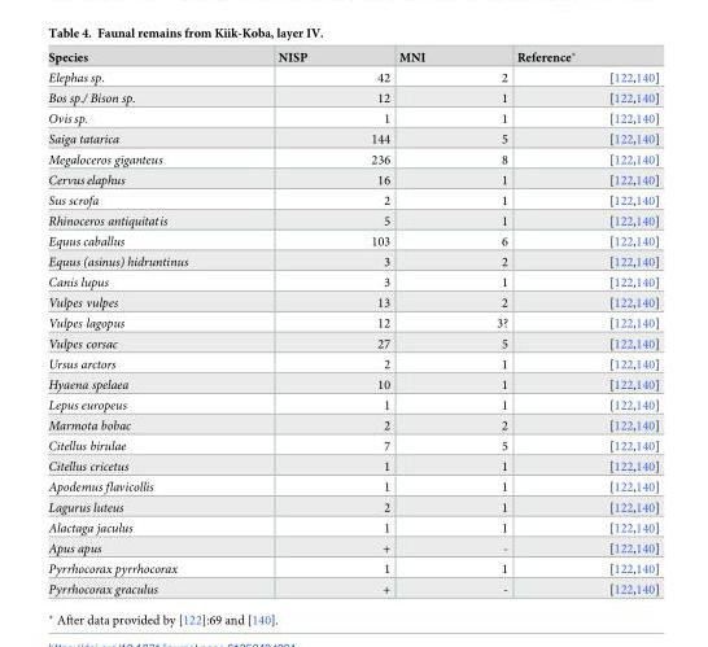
<table><thead><tr><td>Species</td><td>NISP</td><td>MNI</td><td>Reference*</td></tr></thead><tbody><tr><td>Elephas sp.</td><td>42</td><td>2</td><td>[122,140]</td></tr><tr><td>Bos sp./ Bison sp.</td><td>12</td><td>1</td><td>[122,140]</td></tr><tr><td>Ovis sp.</td><td>1</td><td>1</td><td>[122,140]</td></tr><tr><td>Saiga tatarica</td><td>144</td><td>5</td><td>[122,140]</td></tr><tr><td>Megaloceros giganteus</td><td>236</td><td>8</td><td>[122,140]</td></tr><tr><td>Cervus elaphus</td><td>16</td><td>1</td><td>[122,140]</td></tr><tr><td>Sus scrofa</td><td>2</td><td>1</td><td>[122,140]</td></tr><tr><td>Rhinoceros antiquitatis</td><td>5</td><td>1</td><td>[122,140]</td></tr><tr><td>Equus caballus</td><td>103</td><td>6</td><td>[122,140]</td></tr><tr><td>Equus (asinus) hidruntinus</td><td>3</td><td>2</td><td>[122,140]</td></tr><tr><td>Canis lupus</td><td>3</td><td>1</td><td>[122,140]</td></tr><tr><td>Vulpes vulpes</td><td>13</td><td>2</td><td>[122,140]</td></tr><tr><td>Vulpes lagopus</td><td>12</td><td>3?</td><td>[122,140]</td></tr><tr><td>Vulpes corsac</td><td>27</td><td>5</td><td>[122,140]</td></tr><tr><td>Ursus arctors</td><td>2</td><td>1</td><td>[122,140]</td></tr><tr><td>Hyaena spelaea</td><td>10</td><td>1</td><td>[122,140]</td></tr><tr><td>Lepus europeus</td><td>1</td><td>1</td><td>[122,140]</td></tr><tr><td>Marmota bobac</td><td>2</td><td>2</td><td>[122,140]</td></tr><tr><td>Citellus birulae</td><td>7</td><td>5</td><td>[122,140]</td></tr><tr><td>Citellus cricetus</td><td>1</td><td>1</td><td>[122,140]</td></tr><tr><td>Apodemus flavicollis</td><td>1</td><td>1</td><td>[122,140]</td></tr><tr><td>Lagurus luteus</td><td>2</td><td>1</td><td>[122,140]</td></tr><tr><td>Alactaga jaculus</td><td>1</td><td>1</td><td>[122,140]</td></tr><tr><td>Apus apus</td><td>+</td><td>-</td><td>[122,140]</td></tr><tr><td>Pyrrhocorax pyrrhocorax</td><td>1</td><td>1</td><td>[122,140]</td></tr><tr><td>Pyrrhocorax graculus</td><td>+</td><td>-</td><td>[122,140]</td></tr></tbody></table>